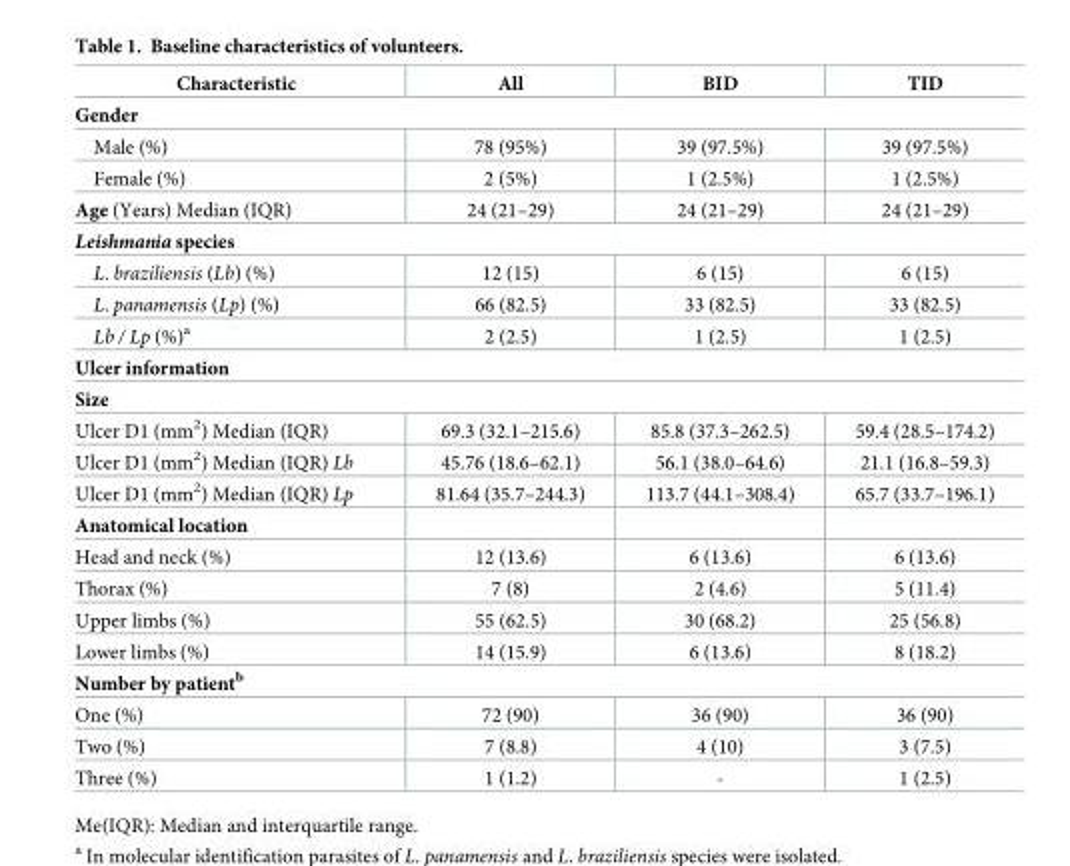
<table><thead><tr><td>Characteristic</td><td>All</td><td>BID</td><td>TID</td></tr></thead><tbody><tr><td colspan="4">Gender</td></tr><tr><td>Male (%)</td><td>78 (95%)</td><td>39 (97.5%)</td><td>39 (97.5%)</td></tr><tr><td>Female (%)</td><td>2 (5%)</td><td>1 (2.5%)</td><td>1 (2.5%)</td></tr><tr><td>Age (Years) Median (IQR)</td><td>24 (21–29)</td><td>24 (21–29)</td><td>24 (21–29)</td></tr><tr><td colspan="4">Leishmania species</td></tr><tr><td>L. braziliensis (Lb) (%)</td><td>12 (15)</td><td>6 (15)</td><td>6 (15)</td></tr><tr><td>L. panamensis (Lp) (%)</td><td>66 (82.5)</td><td>33 (82.5)</td><td>33 (82.5)</td></tr><tr><td>Lb / Lp (%)<sup>a</sup></td><td>2 (2.5)</td><td>1 (2.5)</td><td>1 (2.5)</td></tr><tr><td colspan="4">Ulcer information</td></tr><tr><td colspan="4">Size</td></tr><tr><td>Ulcer D1 (mm<sup>2</sup>) Median (IQR)</td><td>69.3 (32.1–215.6)</td><td>85.8 (37.3–262.5)</td><td>59.4 (28.5–174.2)</td></tr><tr><td>Ulcer D1 (mm<sup>2</sup>) Median (IQR) Lb</td><td>45.76 (18.6–62.1)</td><td>56.1 (38.0–64.6)</td><td>21.1 (16.8–59.3)</td></tr><tr><td>Ulcer D1 (mm<sup>2</sup>) Median (IQR) Lp</td><td>81.64 (35.7–244.3)</td><td>113.7 (44.1–308.4)</td><td>65.7 (33.7–196.1)</td></tr><tr><td colspan="4">Anatomical location</td></tr><tr><td>Head and neck (%)</td><td>12 (13.6)</td><td>6 (13.6)</td><td>6 (13.6)</td></tr><tr><td>Thorax (%)</td><td>7 (8)</td><td>2 (4.6)</td><td>5 (11.4)</td></tr><tr><td>Upper limbs (%)</td><td>55 (62.5)</td><td>30 (68.2)</td><td>25 (56.8)</td></tr><tr><td>Lower limbs (%)</td><td>14 (15.9)</td><td>6 (13.6)</td><td>8 (18.2)</td></tr><tr><td colspan="4">Number by patient<sup>b</sup></td></tr><tr><td>One (%)</td><td>72 (90)</td><td>36 (90)</td><td>36 (90)</td></tr><tr><td>Two (%)</td><td>7 (8.8)</td><td>4 (10)</td><td>3 (7.5)</td></tr><tr><td>Three (%)</td><td>1 (1.2)</td><td>-</td><td>1 (2.5)</td></tr></tbody></table>